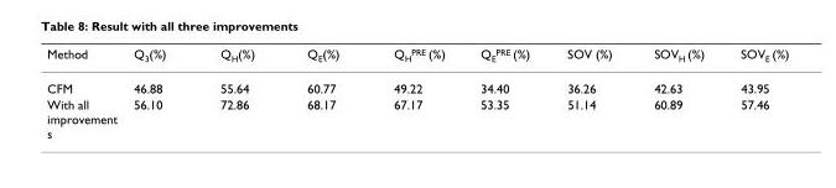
<table><thead><tr><td>Method</td><td>Q3(%)</td><td>QH(%)</td><td>QE(%)</td><td>QHPRE (%)</td><td>QEPRE (%)</td><td>SOV (%)</td><td>SOVH (%)</td><td>SOVE (%)</td></tr></thead><tbody><tr><td>CFM</td><td>46.88</td><td>55.64</td><td>60.77</td><td>49.22</td><td>34.40</td><td>36.26</td><td>42.63</td><td>43.95</td></tr><tr><td>With all improvement s</td><td>56.10</td><td>72.86</td><td>68.17</td><td>67.17</td><td>53.35</td><td>51.14</td><td>60.89</td><td>57.46</td></tr></tbody></table>